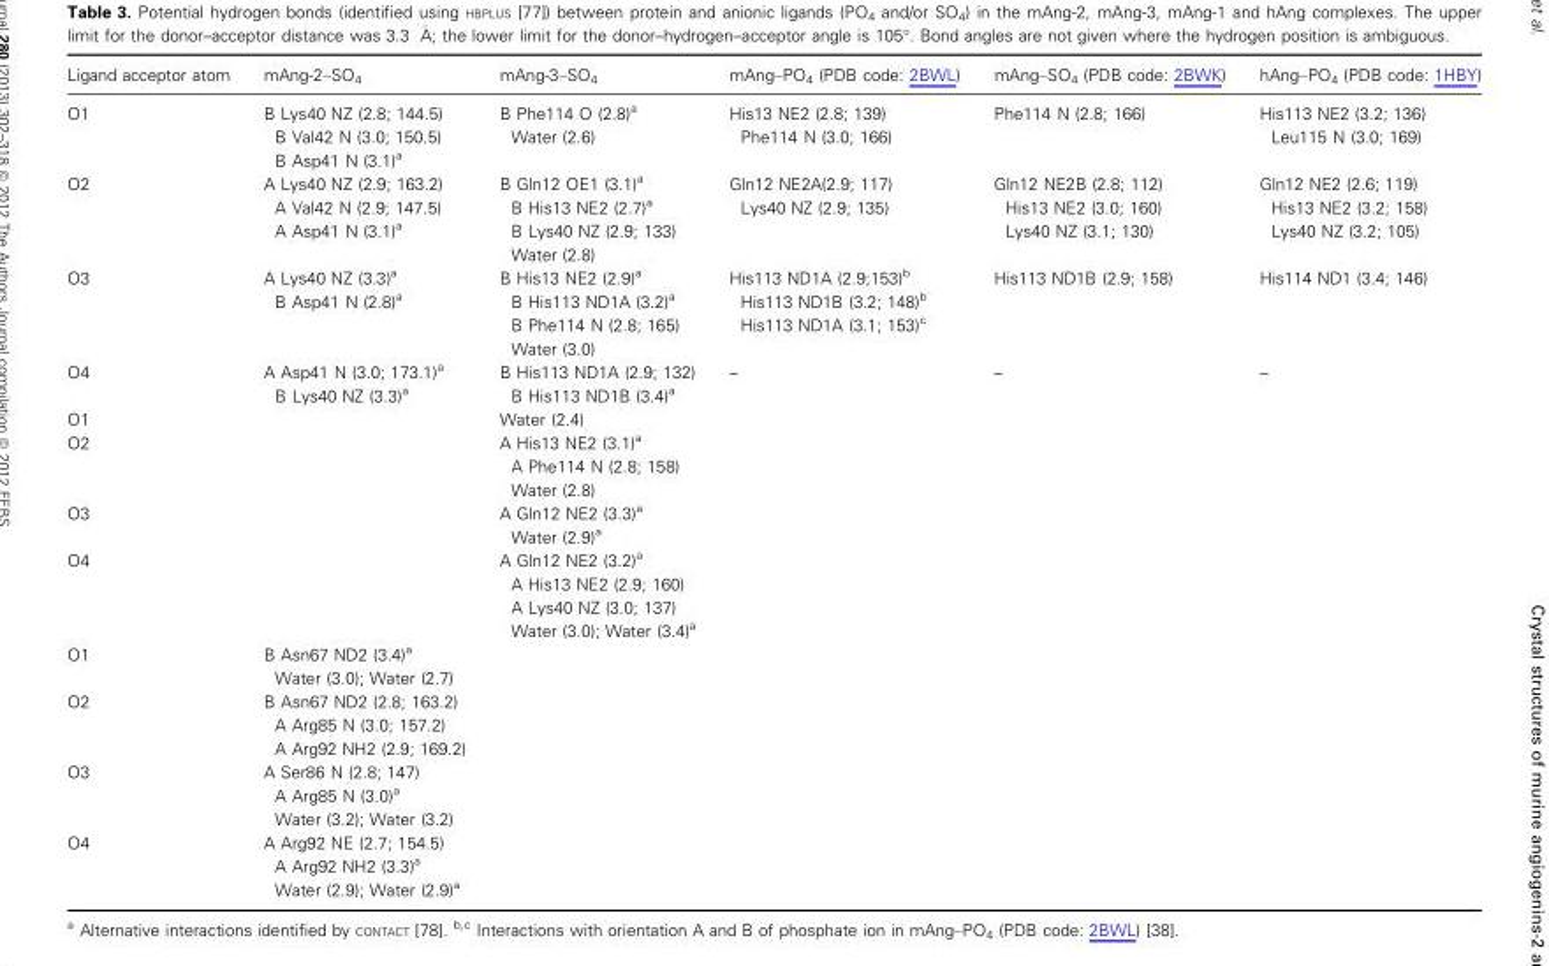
<table><thead><tr><td>Ligand acceptor atom</td><td>mAng-2–SO<sub>4</sub></td><td>mAng-3–SO<sub>4</sub></td><td>mAng–PO<sub>4</sub> (PDB code: 2BWL)</td><td>mAng–SO<sub>4</sub> (PDB code: 2BWK)</td><td>hAng–PO<sub>4</sub> (PDB code: 1HBY)</td></tr></thead><tbody><tr><td>O1</td><td>B Lys40 NZ (2.8; 144.5) B Val42 N (3.0; 150.5) B Asp41 N (3.1)<sup>a</sup></td><td>B Phe114 O (2.8)<sup>a</sup> Water (2.6)</td><td>His13 NE2 (2.8; 139) Phe114 N (3.0; 166)</td><td>Phe114 N (2.8; 166)</td><td>His113 NE2 (3.2; 136) Leu115 N (3.0; 169)</td></tr><tr><td>O2</td><td>A Lys40 NZ (2.9; 163.2) A Val42 N (2.9; 147.5) A Asp41 N (3.1)<sup>a</sup></td><td>B Gln12 OE1 (3.1)<sup>a</sup> B His13 NE2 (2.7)<sup>a</sup> B Lys40 NZ (2.9; 133) Water (2.8)</td><td>Gln12 NE2A(2.9; 117) Lys40 NZ (2.9; 135)</td><td>Gln12 NE2B (2.8; 112) His13 NE2 (3.0; 160) Lys40 NZ (3.1; 130)</td><td>Gln12 NE2 (2.6; 119) His13 NE2 (3.2; 158) Lys40 NZ (3.2; 105)</td></tr><tr><td>O3</td><td>A Lys40 NZ (3.3)<sup>a</sup> B Asp41 N (2.8)<sup>a</sup></td><td>B His13 NE2 (2.9)<sup>a</sup> B His113 ND1A (3.2)<sup>a</sup> B Phe114 N (2.8; 165) Water (3.0)</td><td>His113 ND1A (2.9;153)<sup>b</sup> His113 ND1B (3.2; 148)<sup>b</sup> His113 ND1A (3.1; 153)<sup>c</sup></td><td>His113 ND1B (2.9; 158)</td><td>His114 ND1 (3.4; 146)</td></tr><tr><td>O4</td><td>A Asp41 N (3.0; 173.1)<sup>a</sup> B Lys40 NZ (3.3)<sup>a</sup></td><td>B His113 ND1A (2.9; 132) B His113 ND1B (3.4)<sup>a</sup></td><td>–</td><td>–</td><td>–</td></tr><tr><td>O1</td><td></td><td>Water (2.4)</td><td></td><td></td><td></td></tr><tr><td>O2</td><td></td><td>A His13 NE2 (3.1)<sup>a</sup> A Phe114 N (2.8; 158) Water (2.8)</td><td></td><td></td><td></td></tr><tr><td>O3</td><td></td><td>A Gln12 NE2 (3.3)<sup>a</sup> Water (2.9)<sup>a</sup></td><td></td><td></td><td></td></tr><tr><td>O4</td><td></td><td>A Gln12 NE2 (3.2)<sup>a</sup> A His13 NE2 (2.9; 160) A Lys40 NZ (3.0; 137) Water (3.0); Water (3.4)<sup>a</sup></td><td></td><td></td><td></td></tr><tr><td>O1</td><td>B Asn67 ND2 (3.4)<sup>a</sup> Water (3.0); Water (2.7)</td><td></td><td></td><td></td><td></td></tr><tr><td>O2</td><td>B Asn67 ND2 (2.8; 163.2) A Arg85 N (3.0; 157.2) A Arg92 NH2 (2.9; 169.2)</td><td></td><td></td><td></td><td></td></tr><tr><td>O3</td><td>A Ser86 N (2.8; 147) A Arg85 N (3.0)<sup>a</sup> Water (3.2); Water (3.2)</td><td></td><td></td><td></td><td></td></tr><tr><td>O4</td><td>A Arg92 NE (2.7; 154.5) A Arg92 NH2 (3.3)<sup>a</sup> Water (2.9); Water (2.9)<sup>a</sup></td><td></td><td></td><td></td><td></td></tr></tbody></table>